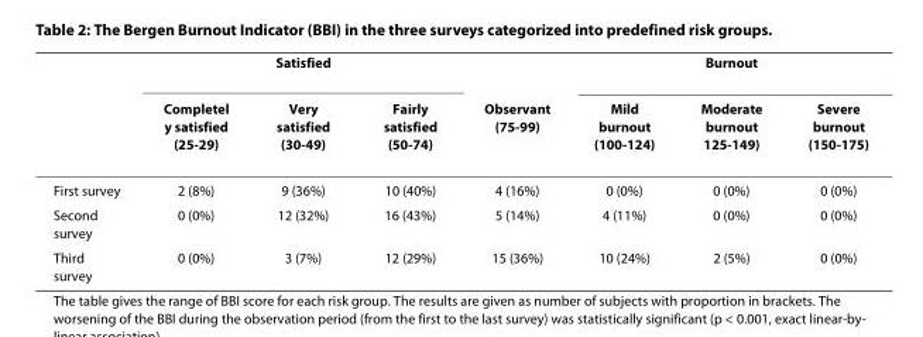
<table><thead><tr><td rowspan="2"></td><td colspan="3">Satisfied</td><td rowspan="2">Observant (75-99)</td><td colspan="3">Burnout</td></tr><tr><td>Completel y satisfied (25-29)</td><td>Very satisfied (30-49)</td><td>Fairly satisfied (50-74)</td><td>Mild burnout (100-124)</td><td>Moderate burnout 125-149)</td><td>Severe burnout (150-175)</td></tr></thead><tbody><tr><td>First survey</td><td>2 (8%)</td><td>9 (36%)</td><td>10 (40%)</td><td>4 (16%)</td><td>0 (0%)</td><td>0 (0%)</td><td>0 (0%)</td></tr><tr><td>Second survey</td><td>0 (0%)</td><td>12 (32%)</td><td>16 (43%)</td><td>5 (14%)</td><td>4 (11%)</td><td>0 (0%)</td><td>0 (0%)</td></tr><tr><td>Third survey</td><td>0 (0%)</td><td>3 (7%)</td><td>12 (29%)</td><td>15 (36%)</td><td>10 (24%)</td><td>2 (5%)</td><td>0 (0%)</td></tr></tbody></table>